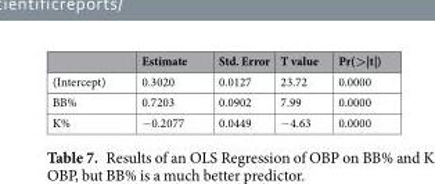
<table><thead><tr><td></td><td>Estimate</td><td>Std. Error</td><td>T value</td><td>Pr(&gt;|t|)</td></tr></thead><tbody><tr><td>(Intercept)</td><td>0.3020</td><td>0.0127</td><td>23.72</td><td>0.0000</td></tr><tr><td>BB%</td><td>0.7203</td><td>0.0902</td><td>7.99</td><td>0.0000</td></tr><tr><td>K%</td><td>−0.2077</td><td>0.0449</td><td>−4.63</td><td>0.0000</td></tr></tbody></table>